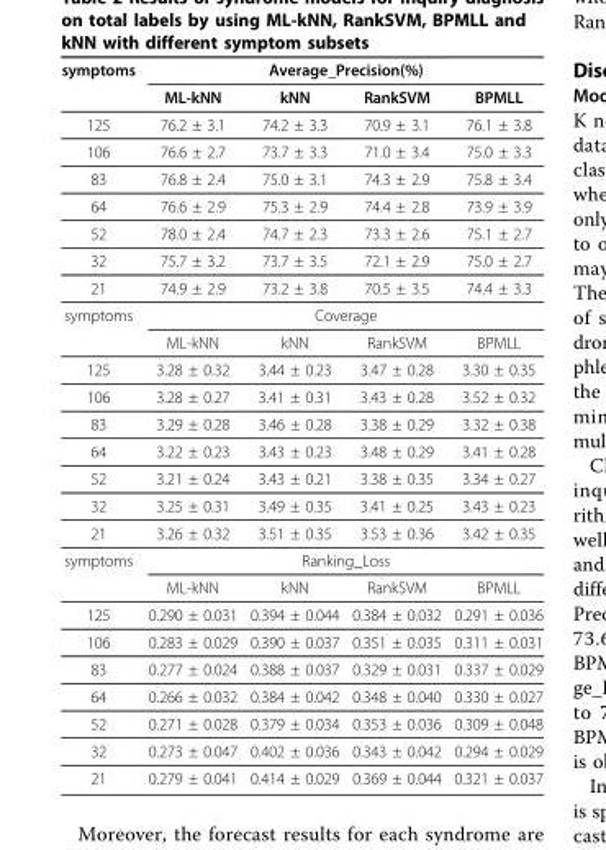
<table><thead><tr><td rowspan="2">symptoms</td><td colspan="4">Average_Precision(%)</td></tr><tr><td>ML-kNN</td><td>kNN</td><td>RankSVM</td><td>BPMLL</td></tr></thead><tbody><tr><td>125</td><td>76.2 ± 3.1</td><td>74.2 ± 3.3</td><td>70.9 ± 3.1</td><td>76.1 ± 3.8</td></tr><tr><td>106</td><td>76.6 ± 2.7</td><td>73.7 ± 3.3</td><td>71.0 ± 3.4</td><td>75.0 ± 3.3</td></tr><tr><td>83</td><td>76.8 ± 2.4</td><td>75.0 ± 3.1</td><td>74.3 ± 2.9</td><td>75.8 ± 3.4</td></tr><tr><td>64</td><td>76.6 ± 2.9</td><td>75.3 ± 2.9</td><td>74.4 ± 2.8</td><td>73.9 ± 3.9</td></tr><tr><td>52</td><td>78.0 ± 2.4</td><td>74.7 ± 2.3</td><td>73.3 ± 2.6</td><td>75.1 ± 2.7</td></tr><tr><td>32</td><td>75.7 ± 3.2</td><td>73.7 ± 3.5</td><td>72.1 ± 2.9</td><td>75.0 ± 2.7</td></tr><tr><td>21</td><td>74.9 ± 2.9</td><td>73.2 ± 3.8</td><td>70.5 ± 3.5</td><td>74.4 ± 3.3</td></tr><tr><td rowspan="2">symptoms</td><td colspan="4">Coverage</td></tr><tr><td>ML-kNN</td><td>kNN</td><td>RankSVM</td><td>BPMLL</td></tr><tr><td>125</td><td>3.28 ± 0.32</td><td>3.44 ± 0.23</td><td>3.47 ± 0.28</td><td>3.30 ± 0.35</td></tr><tr><td>106</td><td>3.28 ± 0.27</td><td>3.41 ± 0.31</td><td>3.43 ± 0.28</td><td>3.52 ± 0.32</td></tr><tr><td>83</td><td>3.29 ± 0.28</td><td>3.46 ± 0.28</td><td>3.38 ± 0.29</td><td>3.32 ± 0.38</td></tr><tr><td>64</td><td>3.22 ± 0.23</td><td>3.43 ± 0.23</td><td>3.48 ± 0.29</td><td>3.41 ± 0.28</td></tr><tr><td>52</td><td>3.21 ± 0.24</td><td>3.43 ± 0.21</td><td>3.38 ± 0.35</td><td>3.34 ± 0.27</td></tr><tr><td>32</td><td>3.25 ± 0.31</td><td>3.49 ± 0.35</td><td>3.41 ± 0.25</td><td>3.43 ± 0.23</td></tr><tr><td>21</td><td>3.26 ± 0.32</td><td>3.51 ± 0.35</td><td>3.53 ± 0.36</td><td>3.42 ± 0.35</td></tr><tr><td rowspan="2">symptoms</td><td colspan="4">Ranking_Loss</td></tr><tr><td>ML-kNN</td><td>kNN</td><td>RankSVM</td><td>BPMLL</td></tr><tr><td>125</td><td>0.290 ± 0.031</td><td>0.394 ± 0.044</td><td>0.384 ± 0.032</td><td>0.291 ± 0.036</td></tr><tr><td>106</td><td>0.283 ± 0.029</td><td>0.390 ± 0.037</td><td>0.351 ± 0.035</td><td>0.311 ± 0.031</td></tr><tr><td>83</td><td>0.277 ± 0.024</td><td>0.388 ± 0.037</td><td>0.329 ± 0.031</td><td>0.337 ± 0.029</td></tr><tr><td>64</td><td>0.266 ± 0.032</td><td>0.384 ± 0.042</td><td>0.348 ± 0.040</td><td>0.330 ± 0.027</td></tr><tr><td>52</td><td>0.271 ± 0.028</td><td>0.379 ± 0.034</td><td>0.353 ± 0.036</td><td>0.309 ± 0.048</td></tr><tr><td>32</td><td>0.273 ± 0.047</td><td>0.402 ± 0.036</td><td>0.343 ± 0.042</td><td>0.294 ± 0.029</td></tr><tr><td>21</td><td>0.279 ± 0.041</td><td>0.414 ± 0.029</td><td>0.369 ± 0.044</td><td>0.321 ± 0.037</td></tr></tbody></table>